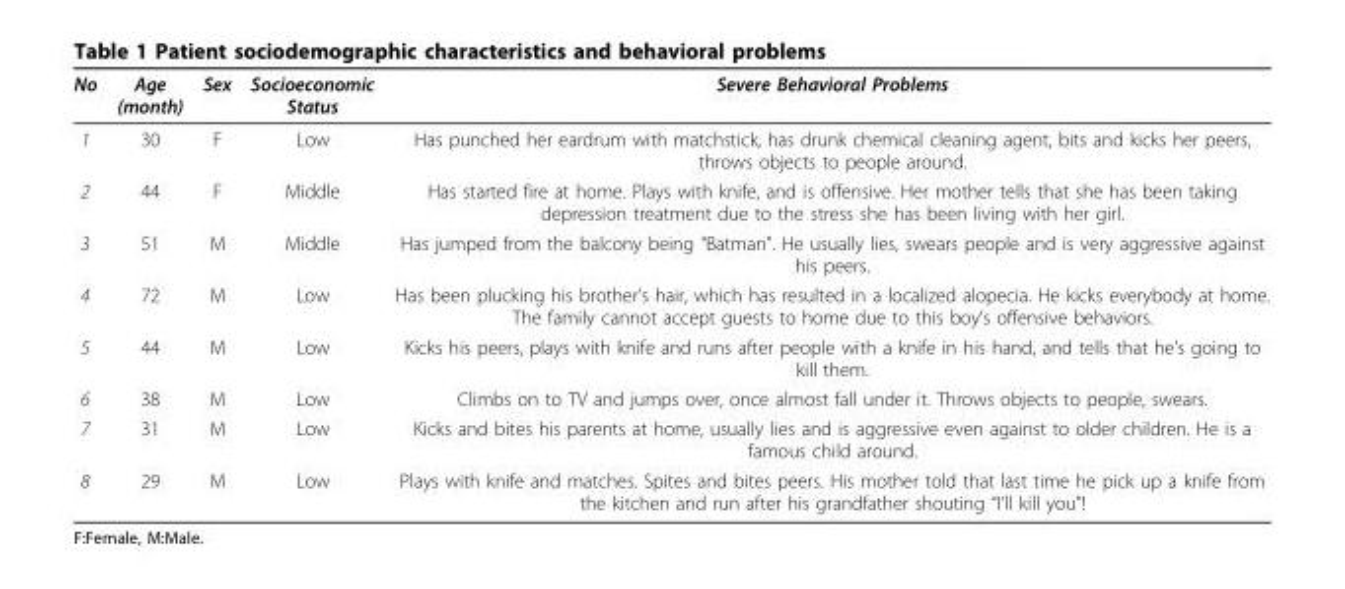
<table><thead><tr><td>No</td><td>Age (month)</td><td>Sex</td><td>Socioeconomic Status</td><td>Severe Behavioral Problems</td></tr></thead><tbody><tr><td>1</td><td>30</td><td>F</td><td>Low</td><td>Has punched her eardrum with matchstick, has drunk chemical cleaning agent, bits and kicks her peers, throws objects to people around.</td></tr><tr><td>2</td><td>44</td><td>F</td><td>Middle</td><td>Has started fire at home. Plays with knife, and is offensive. Her mother tells that she has been taking depression treatment due to the stress she has been living with her girl.</td></tr><tr><td>3</td><td>51</td><td>M</td><td>Middle</td><td>Has jumped from the balcony being “Batman”. He usually lies, swears people and is very aggressive against his peers.</td></tr><tr><td>4</td><td>72</td><td>M</td><td>Low</td><td>Has been plucking his brother’s hair, which has resulted in a localized alopecia. He kicks everybody at home. The family cannot accept guests to home due to this boy’s offensive behaviors.</td></tr><tr><td>5</td><td>44</td><td>M</td><td>Low</td><td>Kicks his peers, plays with knife and runs after people with a knife in his hand, and tells that he’s going to kill them.</td></tr><tr><td>6</td><td>38</td><td>M</td><td>Low</td><td>Climbs on to TV and jumps over, once almost fall under it. Throws objects to people, swears.</td></tr><tr><td>7</td><td>31</td><td>M</td><td>Low</td><td>Kicks and bites his parents at home, usually lies and is aggressive even against to older children. He is a famous child around.</td></tr><tr><td>8</td><td>29</td><td>M</td><td>Low</td><td>Plays with knife and matches. Spites and bites peers. His mother told that last time he pick up a knife from the kitchen and run after his grandfather shouting “I’ll kill you”!</td></tr></tbody></table>